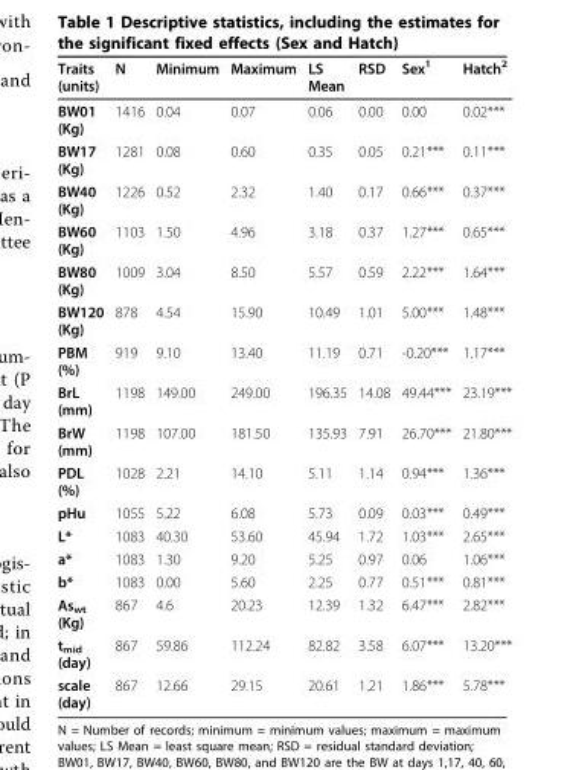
<table><thead><tr><td>Traits (units)</td><td>N</td><td>Minimum</td><td>Maximum</td><td>LS Mean</td><td>RSD</td><td>Sex<sup>1</sup></td><td>Hatch<sup>2</sup></td></tr></thead><tbody><tr><td>BW01 (Kg)</td><td>1416</td><td>0.04</td><td>0.07</td><td>0.06</td><td>0.00</td><td>0.00</td><td>0.02***</td></tr><tr><td>BW17 (Kg)</td><td>1281</td><td>0.08</td><td>0.60</td><td>0.35</td><td>0.05</td><td>0.21***</td><td>0.11***</td></tr><tr><td>BW40 (Kg)</td><td>1226</td><td>0.52</td><td>2.32</td><td>1.40</td><td>0.17</td><td>0.66***</td><td>0.37***</td></tr><tr><td>BW60 (Kg)</td><td>1103</td><td>1.50</td><td>4.96</td><td>3.18</td><td>0.37</td><td>1.27***</td><td>0.65***</td></tr><tr><td>BW80 (Kg)</td><td>1009</td><td>3.04</td><td>8.50</td><td>5.57</td><td>0.59</td><td>2.22***</td><td>1.64***</td></tr><tr><td>BW120 (Kg)</td><td>878</td><td>4.54</td><td>15.90</td><td>10.49</td><td>1.01</td><td>5.00***</td><td>1.48***</td></tr><tr><td>PBM (%)</td><td>919</td><td>9.10</td><td>13.40</td><td>11.19</td><td>0.71</td><td>-0.20***</td><td>1.17***</td></tr><tr><td>BrL (mm)</td><td>1198</td><td>149.00</td><td>249.00</td><td>196.35</td><td>14.08</td><td>49.44***</td><td>23.19***</td></tr><tr><td>BrW (mm)</td><td>1198</td><td>107.00</td><td>181.50</td><td>135.93</td><td>7.91</td><td>26.70***</td><td>21.80***</td></tr><tr><td>PDL (%)</td><td>1028</td><td>2.21</td><td>14.10</td><td>5.11</td><td>1.14</td><td>0.94***</td><td>1.36***</td></tr><tr><td>pHu</td><td>1055</td><td>5.22</td><td>6.08</td><td>5.73</td><td>0.09</td><td>0.03***</td><td>0.49***</td></tr><tr><td>L*</td><td>1083</td><td>40.30</td><td>53.60</td><td>45.94</td><td>1.72</td><td>1.03***</td><td>2.65***</td></tr><tr><td>a*</td><td>1083</td><td>1.30</td><td>9.20</td><td>5.25</td><td>0.97</td><td>0.06</td><td>1.06***</td></tr><tr><td>b*</td><td>1083</td><td>0.00</td><td>5.60</td><td>2.25</td><td>0.77</td><td>0.51***</td><td>0.81***</td></tr><tr><td>As<sub>wt</sub> (Kg)</td><td>867</td><td>4.6</td><td>20.23</td><td>12.39</td><td>1.32</td><td>6.47***</td><td>2.82***</td></tr><tr><td>t<sub>mid</sub> (day)</td><td>867</td><td>59.86</td><td>112.24</td><td>82.82</td><td>3.58</td><td>6.07***</td><td>13.20***</td></tr><tr><td>scale (day)</td><td>867</td><td>12.66</td><td>29.15</td><td>20.61</td><td>1.21</td><td>1.86***</td><td>5.78***</td></tr></tbody></table>